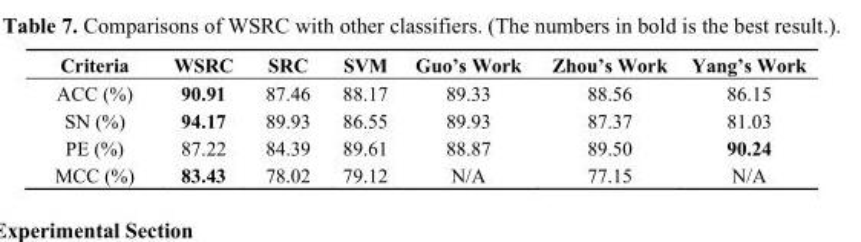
<table><thead><tr><td>Criteria</td><td>WSRC</td><td>SRC</td><td>SVM</td><td>Guo’s Work</td><td>Zhou’s Work</td><td>Yang’s Work</td></tr></thead><tbody><tr><td>ACC (%)</td><td>90.91</td><td>87.46</td><td>88.17</td><td>89.33</td><td>88.56</td><td>86.15</td></tr><tr><td>SN (%)</td><td>94.17</td><td>89.93</td><td>86.55</td><td>89.93</td><td>87.37</td><td>81.03</td></tr><tr><td>PE (%)</td><td>87.22</td><td>84.39</td><td>89.61</td><td>88.87</td><td>89.50</td><td>90.24</td></tr><tr><td>MCC (%)</td><td>83.43</td><td>78.02</td><td>79.12</td><td>N/A</td><td>77.15</td><td>N/A</td></tr></tbody></table>